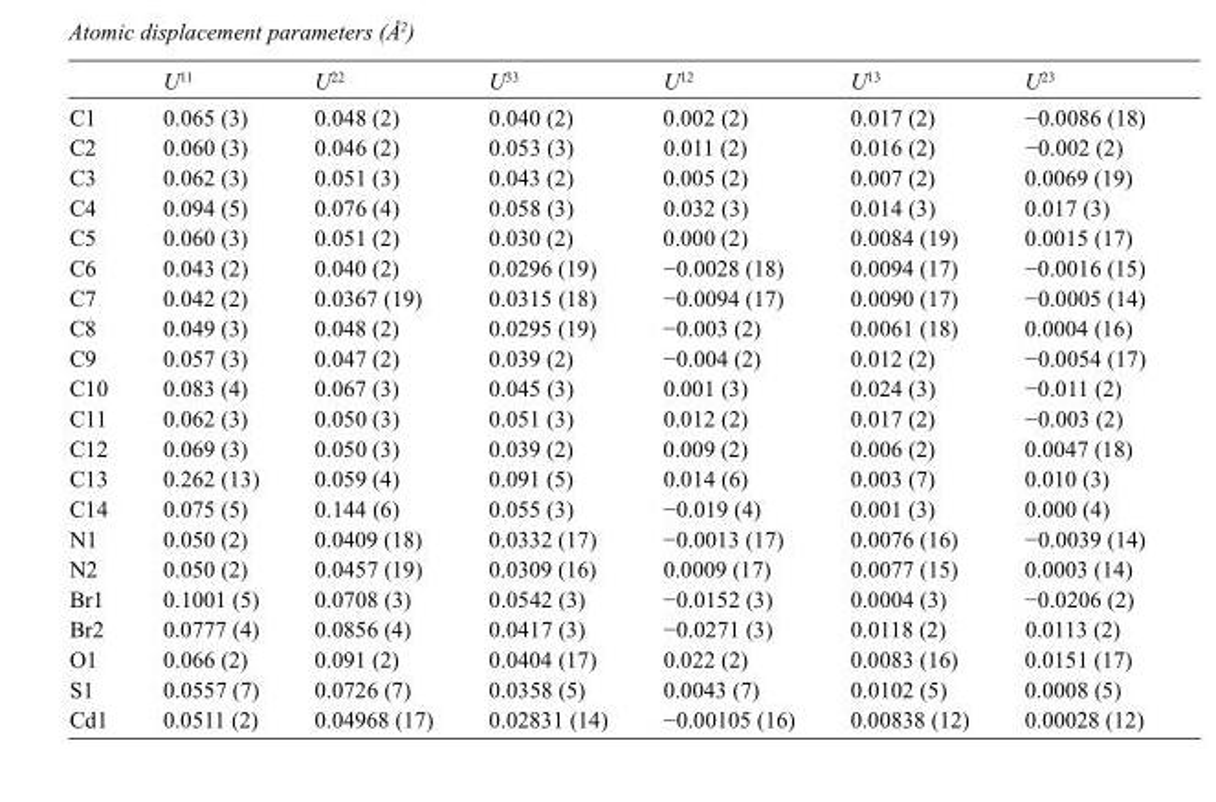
<table><thead><tr><td></td><td>U<sup>11</sup></td><td>U<sup>22</sup></td><td>U<sup>33</sup></td><td>U<sup>12</sup></td><td>U<sup>13</sup></td><td>U<sup>23</sup></td></tr></thead><tbody><tr><td>C1</td><td>0.065 (3)</td><td>0.048 (2)</td><td>0.040 (2)</td><td>0.002 (2)</td><td>0.017 (2)</td><td>−0.0086 (18)</td></tr><tr><td>C2</td><td>0.060 (3)</td><td>0.046 (2)</td><td>0.053 (3)</td><td>0.011 (2)</td><td>0.016 (2)</td><td>−0.002 (2)</td></tr><tr><td>C3</td><td>0.062 (3)</td><td>0.051 (3)</td><td>0.043 (2)</td><td>0.005 (2)</td><td>0.007 (2)</td><td>0.0069 (19)</td></tr><tr><td>C4</td><td>0.094 (5)</td><td>0.076 (4)</td><td>0.058 (3)</td><td>0.032 (3)</td><td>0.014 (3)</td><td>0.017 (3)</td></tr><tr><td>C5</td><td>0.060 (3)</td><td>0.051 (2)</td><td>0.030 (2)</td><td>0.000 (2)</td><td>0.0084 (19)</td><td>0.0015 (17)</td></tr><tr><td>C6</td><td>0.043 (2)</td><td>0.040 (2)</td><td>0.0296 (19)</td><td>−0.0028 (18)</td><td>0.0094 (17)</td><td>−0.0016 (15)</td></tr><tr><td>C7</td><td>0.042 (2)</td><td>0.0367 (19)</td><td>0.0315 (18)</td><td>−0.0094 (17)</td><td>0.0090 (17)</td><td>−0.0005 (14)</td></tr><tr><td>C8</td><td>0.049 (3)</td><td>0.048 (2)</td><td>0.0295 (19)</td><td>−0.003 (2)</td><td>0.0061 (18)</td><td>0.0004 (16)</td></tr><tr><td>C9</td><td>0.057 (3)</td><td>0.047 (2)</td><td>0.039 (2)</td><td>−0.004 (2)</td><td>0.012 (2)</td><td>−0.0054 (17)</td></tr><tr><td>C10</td><td>0.083 (4)</td><td>0.067 (3)</td><td>0.045 (3)</td><td>0.001 (3)</td><td>0.024 (3)</td><td>−0.011 (2)</td></tr><tr><td>C11</td><td>0.062 (3)</td><td>0.050 (3)</td><td>0.051 (3)</td><td>0.012 (2)</td><td>0.017 (2)</td><td>−0.003 (2)</td></tr><tr><td>C12</td><td>0.069 (3)</td><td>0.050 (3)</td><td>0.039 (2)</td><td>0.009 (2)</td><td>0.006 (2)</td><td>0.0047 (18)</td></tr><tr><td>C13</td><td>0.262 (13)</td><td>0.059 (4)</td><td>0.091 (5)</td><td>0.014 (6)</td><td>0.003 (7)</td><td>0.010 (3)</td></tr><tr><td>C14</td><td>0.075 (5)</td><td>0.144 (6)</td><td>0.055 (3)</td><td>−0.019 (4)</td><td>0.001 (3)</td><td>0.000 (4)</td></tr><tr><td>N1</td><td>0.050 (2)</td><td>0.0409 (18)</td><td>0.0332 (17)</td><td>−0.0013 (17)</td><td>0.0076 (16)</td><td>−0.0039 (14)</td></tr><tr><td>N2</td><td>0.050 (2)</td><td>0.0457 (19)</td><td>0.0309 (16)</td><td>0.0009 (17)</td><td>0.0077 (15)</td><td>0.0003 (14)</td></tr><tr><td>Br1</td><td>0.1001 (5)</td><td>0.0708 (3)</td><td>0.0542 (3)</td><td>−0.0152 (3)</td><td>0.0004 (3)</td><td>−0.0206 (2)</td></tr><tr><td>Br2</td><td>0.0777 (4)</td><td>0.0856 (4)</td><td>0.0417 (3)</td><td>−0.0271 (3)</td><td>0.0118 (2)</td><td>0.0113 (2)</td></tr><tr><td>O1</td><td>0.066 (2)</td><td>0.091 (2)</td><td>0.0404 (17)</td><td>0.022 (2)</td><td>0.0083 (16)</td><td>0.0151 (17)</td></tr><tr><td>S1</td><td>0.0557 (7)</td><td>0.0726 (7)</td><td>0.0358 (5)</td><td>0.0043 (7)</td><td>0.0102 (5)</td><td>0.0008 (5)</td></tr><tr><td>Cd1</td><td>0.0511 (2)</td><td>0.04968 (17)</td><td>0.02831 (14)</td><td>−0.00105 (16)</td><td>0.00838 (12)</td><td>0.00028 (12)</td></tr></tbody></table>